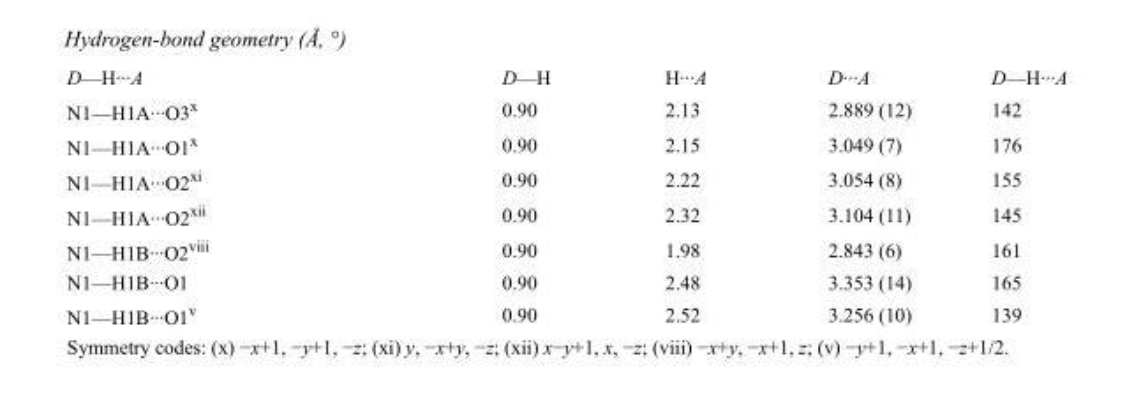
<table><tbody><tr><td>D—H···A</td><td>D—H</td><td>H···A</td><td>D···A</td><td>D—H···A</td></tr><tr><td>N1—H1A···O3<sup>x</sup></td><td>0.90</td><td>2.13</td><td>2.889 (12)</td><td>142</td></tr><tr><td>N1—H1A···O1<sup>x</sup></td><td>0.90</td><td>2.15</td><td>3.049 (7)</td><td>176</td></tr><tr><td>N1—H1A···O2<sup>xi</sup></td><td>0.90</td><td>2.22</td><td>3.054 (8)</td><td>155</td></tr><tr><td>N1—H1A···O2<sup>xii</sup></td><td>0.90</td><td>2.32</td><td>3.104 (11)</td><td>145</td></tr><tr><td>N1—H1B···O2<sup>viii</sup></td><td>0.90</td><td>1.98</td><td>2.843 (6)</td><td>161</td></tr><tr><td>N1—H1B···O1</td><td>0.90</td><td>2.48</td><td>3.353 (14)</td><td>165</td></tr><tr><td>N1—H1B···O1<sup>v</sup></td><td>0.90</td><td>2.52</td><td>3.256 (10)</td><td>139</td></tr></tbody></table>